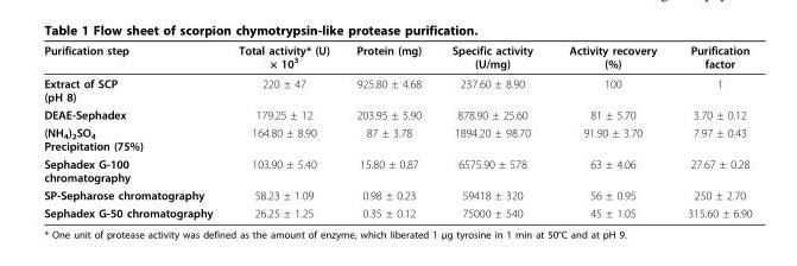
<table><thead><tr><td>Purification step</td><td>Total activity* (U) × 10<sup>3</sup></td><td>Protein (mg)</td><td>Specific activity (U/mg)</td><td>Activity recovery (%)</td><td>Purification factor</td></tr></thead><tbody><tr><td>Extract of SCP (pH 8)</td><td>220 ± 47</td><td>925.80 ± 4.68</td><td>237.60 ± 8.90</td><td>100</td><td>1</td></tr><tr><td>DEAE-Sephadex</td><td>179.25 ± 12</td><td>203.95 ± 5.90</td><td>878.90 ± 25.60</td><td>81 ± 5.70</td><td>3.70 ± 0.12</td></tr><tr><td>(NH<sub>4</sub>)<sub>2</sub>SO<sub>4</sub> Precipitation (75%)</td><td>164.80 ± 8.90</td><td>87 ± 3.78</td><td>1894.20 ± 98.70</td><td>91.90 ± 3.70</td><td>7.97 ± 0.43</td></tr><tr><td>Sephadex G-100 chromatography</td><td>103.90 ± 5.40</td><td>15.80 ± 0.87</td><td>6575.90 ± 578</td><td>63 ± 4.06</td><td>27.67 ± 0.28</td></tr><tr><td>SP-Sepharose chromatography</td><td>58.23 ± 1.09</td><td>0.98 ± 0.23</td><td>59418 ± 320</td><td>56 ± 0.95</td><td>250 ± 2.70</td></tr><tr><td>Sephadex G-50 chromatography</td><td>26.25 ± 1.25</td><td>0.35 ± 0.12</td><td>75000 ± 540</td><td>45 ± 1.05</td><td>315.60 ± 6.90</td></tr></tbody></table>